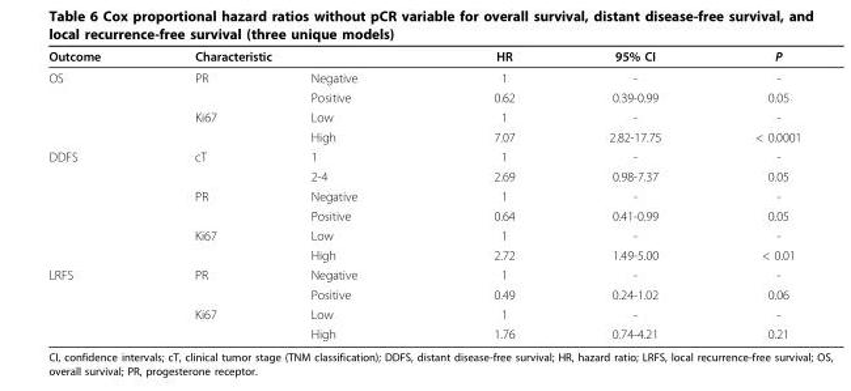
<table><thead><tr><td rowspan="2">Outcome OS</td><td colspan="2">Characteristic</td><td rowspan="2">HR 1</td><td rowspan="2">95% CI -</td><td rowspan="2">P -</td></tr><tr><td>PR</td><td>Negative</td></tr></thead><tbody><tr><td></td><td></td><td>Positive</td><td>0.62</td><td>0.39-0.99</td><td>0.05</td></tr><tr><td></td><td>Ki67</td><td>Low</td><td>1</td><td>-</td><td>-</td></tr><tr><td></td><td></td><td>High</td><td>7.07</td><td>2.82-17.75</td><td>&lt; 0.0001</td></tr><tr><td rowspan="6">DDFS</td><td>cT</td><td>1</td><td>1</td><td>-</td><td>-</td></tr><tr><td></td><td>2-4</td><td>2.69</td><td>0.98-7.37</td><td>0.05</td></tr><tr><td>PR</td><td>Negative</td><td>1</td><td>-</td><td>-</td></tr><tr><td></td><td>Positive</td><td>0.64</td><td>0.41-0.99</td><td>0.05</td></tr><tr><td>Ki67</td><td>Low</td><td>1</td><td>-</td><td>-</td></tr><tr><td></td><td>High</td><td>2.72</td><td>1.49-5.00</td><td>&lt; 0.01</td></tr><tr><td rowspan="4">LRFS</td><td>PR</td><td>Negative</td><td>1</td><td>-</td><td>-</td></tr><tr><td></td><td>Positive</td><td>0.49</td><td>0.24-1.02</td><td>0.06</td></tr><tr><td>Ki67</td><td>Low</td><td>1</td><td>-</td><td>-</td></tr><tr><td></td><td>High</td><td>1.76</td><td>0.74-4.21</td><td>0.21</td></tr></tbody></table>